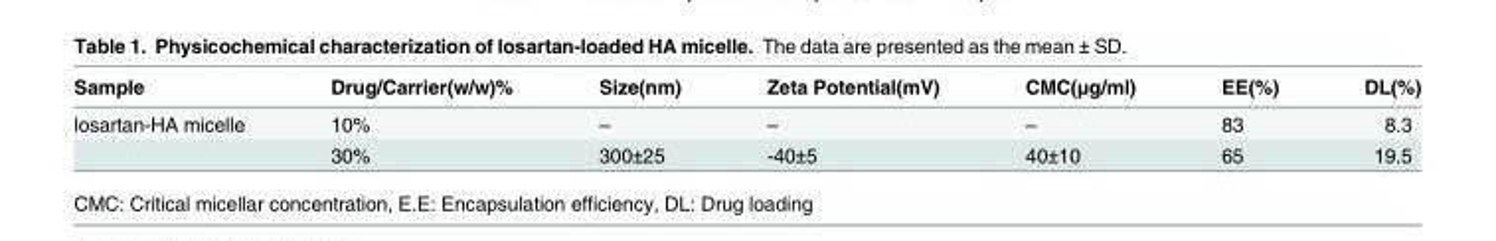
<table><thead><tr><td>Sample</td><td>Drug/Carrier(w/w)%</td><td>Size(nm)</td><td>Zeta Potential(mV)</td><td>CMC(μg/ml)</td><td>EE(%)</td><td>DL(%)</td></tr></thead><tbody><tr><td rowspan="2">losartan-HA micelle</td><td>10%</td><td>–</td><td>–</td><td>–</td><td>83</td><td>8.3</td></tr><tr><td>30%</td><td>300±25</td><td>-40±5</td><td>40±10</td><td>65</td><td>19.5</td></tr></tbody></table>